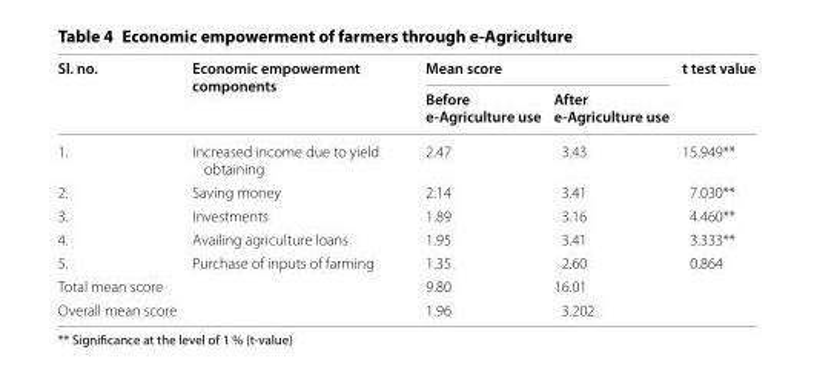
<table><thead><tr><td rowspan="2">Sl. no.</td><td rowspan="2">Economic empowerment components</td><td colspan="2">Mean score</td><td rowspan="2">t test value</td></tr><tr><td>Before e‑Agriculture use</td><td>After e‑Agriculture use</td></tr></thead><tbody><tr><td>1.</td><td>Increased income due to yield obtaining</td><td>2.47</td><td>3.43</td><td>15.949**</td></tr><tr><td>2.</td><td>Saving money</td><td>2.14</td><td>3.41</td><td>7.030**</td></tr><tr><td>3.</td><td>Investments</td><td>1.89</td><td>3.16</td><td>4.460**</td></tr><tr><td>4.</td><td>Availing agriculture loans</td><td>1.95</td><td>3.41</td><td>3.333**</td></tr><tr><td>5.</td><td>Purchase of inputs of farming</td><td>1.35</td><td>2.60</td><td>0.864</td></tr><tr><td colspan="2">Total mean score</td><td>9.80</td><td>16.01</td><td></td></tr><tr><td colspan="2">Overall mean score</td><td>1.96</td><td>3.202</td><td></td></tr></tbody></table>